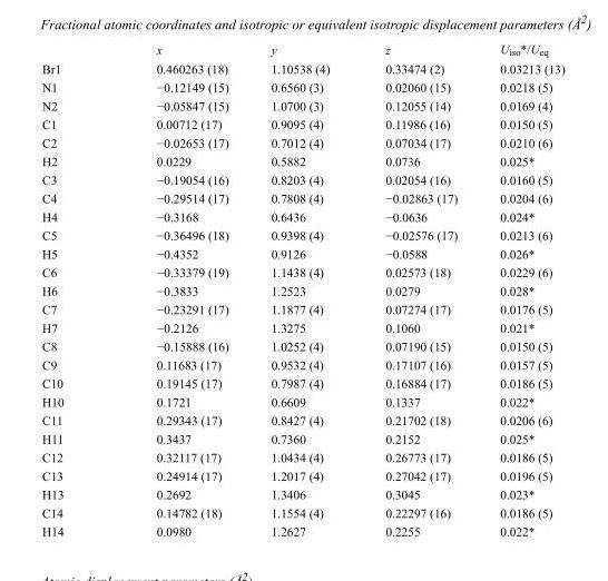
<table><thead><tr><td></td><td>x</td><td>y</td><td>z</td><td>U<sub>iso</sub>*/U<sub>eq</sub></td></tr></thead><tbody><tr><td>Br1</td><td>0.460263 (18)</td><td>1.10538 (4)</td><td>0.33474 (2)</td><td>0.03213 (13)</td></tr><tr><td>N1</td><td>−0.12149 (15)</td><td>0.6560 (3)</td><td>0.02060 (15)</td><td>0.0218 (5)</td></tr><tr><td>N2</td><td>−0.05847 (15)</td><td>1.0700 (3)</td><td>0.12055 (14)</td><td>0.0169 (4)</td></tr><tr><td>C1</td><td>0.00712 (17)</td><td>0.9095 (4)</td><td>0.11986 (16)</td><td>0.0150 (5)</td></tr><tr><td>C2</td><td>−0.02653 (17)</td><td>0.7012 (4)</td><td>0.07034 (17)</td><td>0.0210 (6)</td></tr><tr><td>H2</td><td>0.0229</td><td>0.5882</td><td>0.0736</td><td>0.025*</td></tr><tr><td>C3</td><td>−0.19054 (16)</td><td>0.8203 (4)</td><td>0.02054 (16)</td><td>0.0160 (5)</td></tr><tr><td>C4</td><td>−0.29514 (17)</td><td>0.7808 (4)</td><td>−0.02863 (17)</td><td>0.0204 (6)</td></tr><tr><td>H4</td><td>−0.3168</td><td>0.6436</td><td>−0.0636</td><td>0.024*</td></tr><tr><td>C5</td><td>−0.36496 (18)</td><td>0.9398 (4)</td><td>−0.02576 (17)</td><td>0.0213 (6)</td></tr><tr><td>H5</td><td>−0.4352</td><td>0.9126</td><td>−0.0588</td><td>0.026*</td></tr><tr><td>C6</td><td>−0.33379 (19)</td><td>1.1438 (4)</td><td>0.02573 (18)</td><td>0.0229 (6)</td></tr><tr><td>H6</td><td>−0.3833</td><td>1.2523</td><td>0.0279</td><td>0.028*</td></tr><tr><td>C7</td><td>−0.23291 (17)</td><td>1.1877 (4)</td><td>0.07274 (17)</td><td>0.0176 (5)</td></tr><tr><td>H7</td><td>−0.2126</td><td>1.3275</td><td>0.1060</td><td>0.021*</td></tr><tr><td>C8</td><td>−0.15888 (16)</td><td>1.0252 (4)</td><td>0.07190 (15)</td><td>0.0150 (5)</td></tr><tr><td>C9</td><td>0.11683 (17)</td><td>0.9532 (4)</td><td>0.17107 (16)</td><td>0.0157 (5)</td></tr><tr><td>C10</td><td>0.19145 (17)</td><td>0.7987 (4)</td><td>0.16884 (17)</td><td>0.0186 (5)</td></tr><tr><td>H10</td><td>0.1721</td><td>0.6609</td><td>0.1337</td><td>0.022*</td></tr><tr><td>C11</td><td>0.29343 (17)</td><td>0.8427 (4)</td><td>0.21702 (18)</td><td>0.0206 (6)</td></tr><tr><td>H11</td><td>0.3437</td><td>0.7360</td><td>0.2152</td><td>0.025*</td></tr><tr><td>C12</td><td>0.32117 (17)</td><td>1.0434 (4)</td><td>0.26773 (17)</td><td>0.0186 (5)</td></tr><tr><td>C13</td><td>0.24914 (17)</td><td>1.2017 (4)</td><td>0.27042 (17)</td><td>0.0196 (5)</td></tr><tr><td>H13</td><td>0.2692</td><td>1.3406</td><td>0.3045</td><td>0.023*</td></tr><tr><td>C14</td><td>0.14782 (18)</td><td>1.1554 (4)</td><td>0.22297 (16)</td><td>0.0186 (5)</td></tr><tr><td>H14</td><td>0.0980</td><td>1.2627</td><td>0.2255</td><td>0.022*</td></tr></tbody></table>